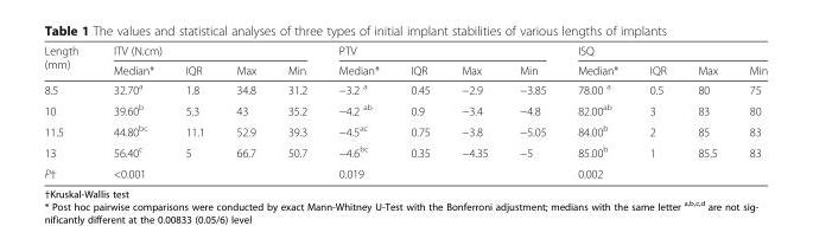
<table><thead><tr><td rowspan="2">Length (mm)</td><td colspan="4">ITV (N.cm)</td><td colspan="4">PTV</td><td colspan="4">ISQ</td></tr><tr><td>Median*</td><td>IQR</td><td>Max</td><td>Min</td><td>Median*</td><td>IQR</td><td>Max</td><td>Min</td><td>Median*</td><td>IQR</td><td>Max</td><td>Min</td></tr></thead><tbody><tr><td>8.5</td><td>32.70<sup>a</sup></td><td>1.8</td><td>34.8</td><td>31.2</td><td>−3.2 <sup>a</sup></td><td>0.45</td><td>−2.9</td><td>−3.85</td><td>78.00 <sup>a</sup></td><td>0.5</td><td>80</td><td>75</td></tr><tr><td>10</td><td>39.60<sup>b</sup></td><td>5.3</td><td>43</td><td>35.2</td><td>−4.2 <sup>ab</sup></td><td>0.9</td><td>−3.4</td><td>−4.8</td><td>82.00<sup>ab</sup></td><td>3</td><td>83</td><td>80</td></tr><tr><td>11.5</td><td>44.80<sup>bc</sup></td><td>11.1</td><td>52.9</td><td>39.3</td><td>−4.5<sup>ac</sup></td><td>0.75</td><td>−3.8</td><td>−5.05</td><td>84.00<sup>b</sup></td><td>2</td><td>85</td><td>83</td></tr><tr><td>13</td><td>56.40<sup>c</sup></td><td>5</td><td>66.7</td><td>50.7</td><td>−4.6<sup>bc</sup></td><td>0.35</td><td>−4.35</td><td>−5</td><td>85.00<sup>b</sup></td><td>1</td><td>85.5</td><td>83</td></tr><tr><td>P†</td><td>&lt;0.001</td><td></td><td></td><td></td><td>0.019</td><td></td><td></td><td></td><td>0.002</td><td></td><td></td><td></td></tr></tbody></table>